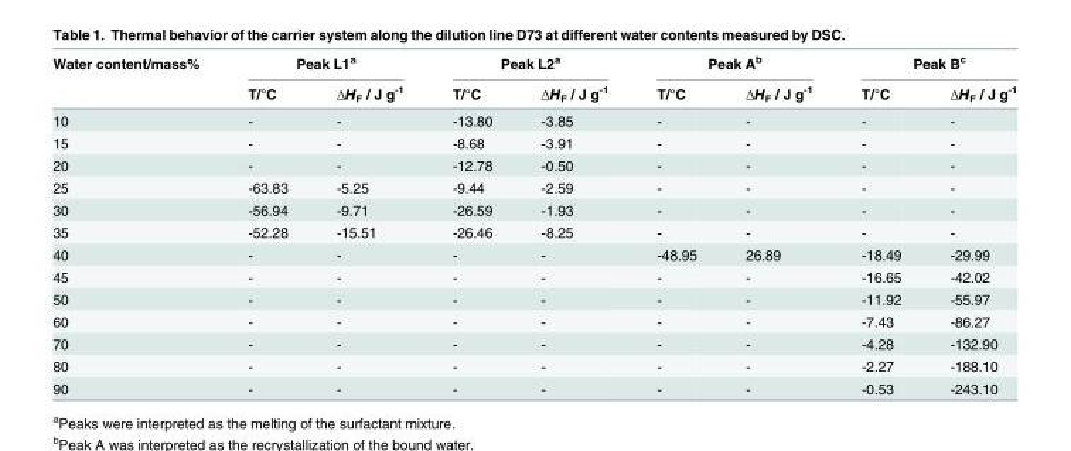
<table><thead><tr><td rowspan="2">Water content/mass%</td><td colspan="2">Peak L1<sup>a</sup></td><td colspan="2">Peak L2<sup>a</sup></td><td colspan="2">Peak A<sup>b</sup></td><td colspan="2">Peak B<sup>c</sup></td></tr><tr><td>T/°C</td><td>ΔHF / J g-1</td><td>T/°C</td><td>ΔHF / J g-1</td><td>T/°C</td><td>ΔHF / J g-1</td><td>T/°C</td><td>ΔHF / J g-1</td></tr></thead><tbody><tr><td>10</td><td>-</td><td>-</td><td>-13.80</td><td>-3.85</td><td>-</td><td>-</td><td>-</td><td>-</td></tr><tr><td>15</td><td>-</td><td>-</td><td>-8.68</td><td>-3.91</td><td>-</td><td>-</td><td>-</td><td>-</td></tr><tr><td>20</td><td>-</td><td>-</td><td>-12.78</td><td>-0.50</td><td>-</td><td>-</td><td>-</td><td>-</td></tr><tr><td>25</td><td>-63.83</td><td>-5.25</td><td>-9.44</td><td>-2.59</td><td>-</td><td>-</td><td>-</td><td>-</td></tr><tr><td>30</td><td>-56.94</td><td>-9.71</td><td>-26.59</td><td>-1.93</td><td>-</td><td>-</td><td>-</td><td>-</td></tr><tr><td>35</td><td>-52.28</td><td>-15.51</td><td>-26.46</td><td>-8.25</td><td>-</td><td>-</td><td>-</td><td>-</td></tr><tr><td>40</td><td>-</td><td>-</td><td>-</td><td>-</td><td>-48.95</td><td>26.89</td><td>-18.49</td><td>-29.99</td></tr><tr><td>45</td><td>-</td><td>-</td><td>-</td><td>-</td><td>-</td><td>-</td><td>-16.65</td><td>-42.02</td></tr><tr><td>50</td><td>-</td><td>-</td><td>-</td><td>-</td><td>-</td><td>-</td><td>-11.92</td><td>-55.97</td></tr><tr><td>60</td><td>-</td><td>-</td><td>-</td><td>-</td><td>-</td><td>-</td><td>-7.43</td><td>-86.27</td></tr><tr><td>70</td><td>-</td><td>-</td><td>-</td><td>-</td><td>-</td><td>-</td><td>-4.28</td><td>-132.90</td></tr><tr><td>80</td><td>-</td><td>-</td><td>-</td><td>-</td><td>-</td><td>-</td><td>-2.27</td><td>-188.10</td></tr><tr><td>90</td><td>-</td><td>-</td><td>-</td><td>-</td><td>-</td><td>-</td><td>-0.53</td><td>-243.10</td></tr></tbody></table>